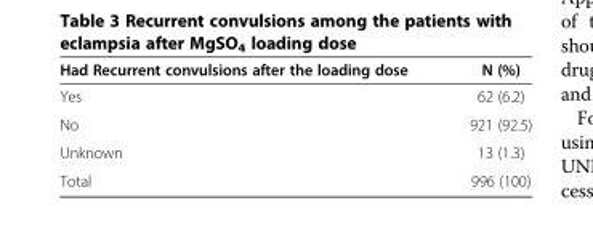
<table><thead><tr><td>Had Recurrent convulsions after the loading dose</td><td>N (%)</td></tr></thead><tbody><tr><td>Yes</td><td>62 (6.2)</td></tr><tr><td>No</td><td>921 (92.5)</td></tr><tr><td>Unknown</td><td>13 (1.3)</td></tr><tr><td>Total</td><td>996 (100)</td></tr></tbody></table>